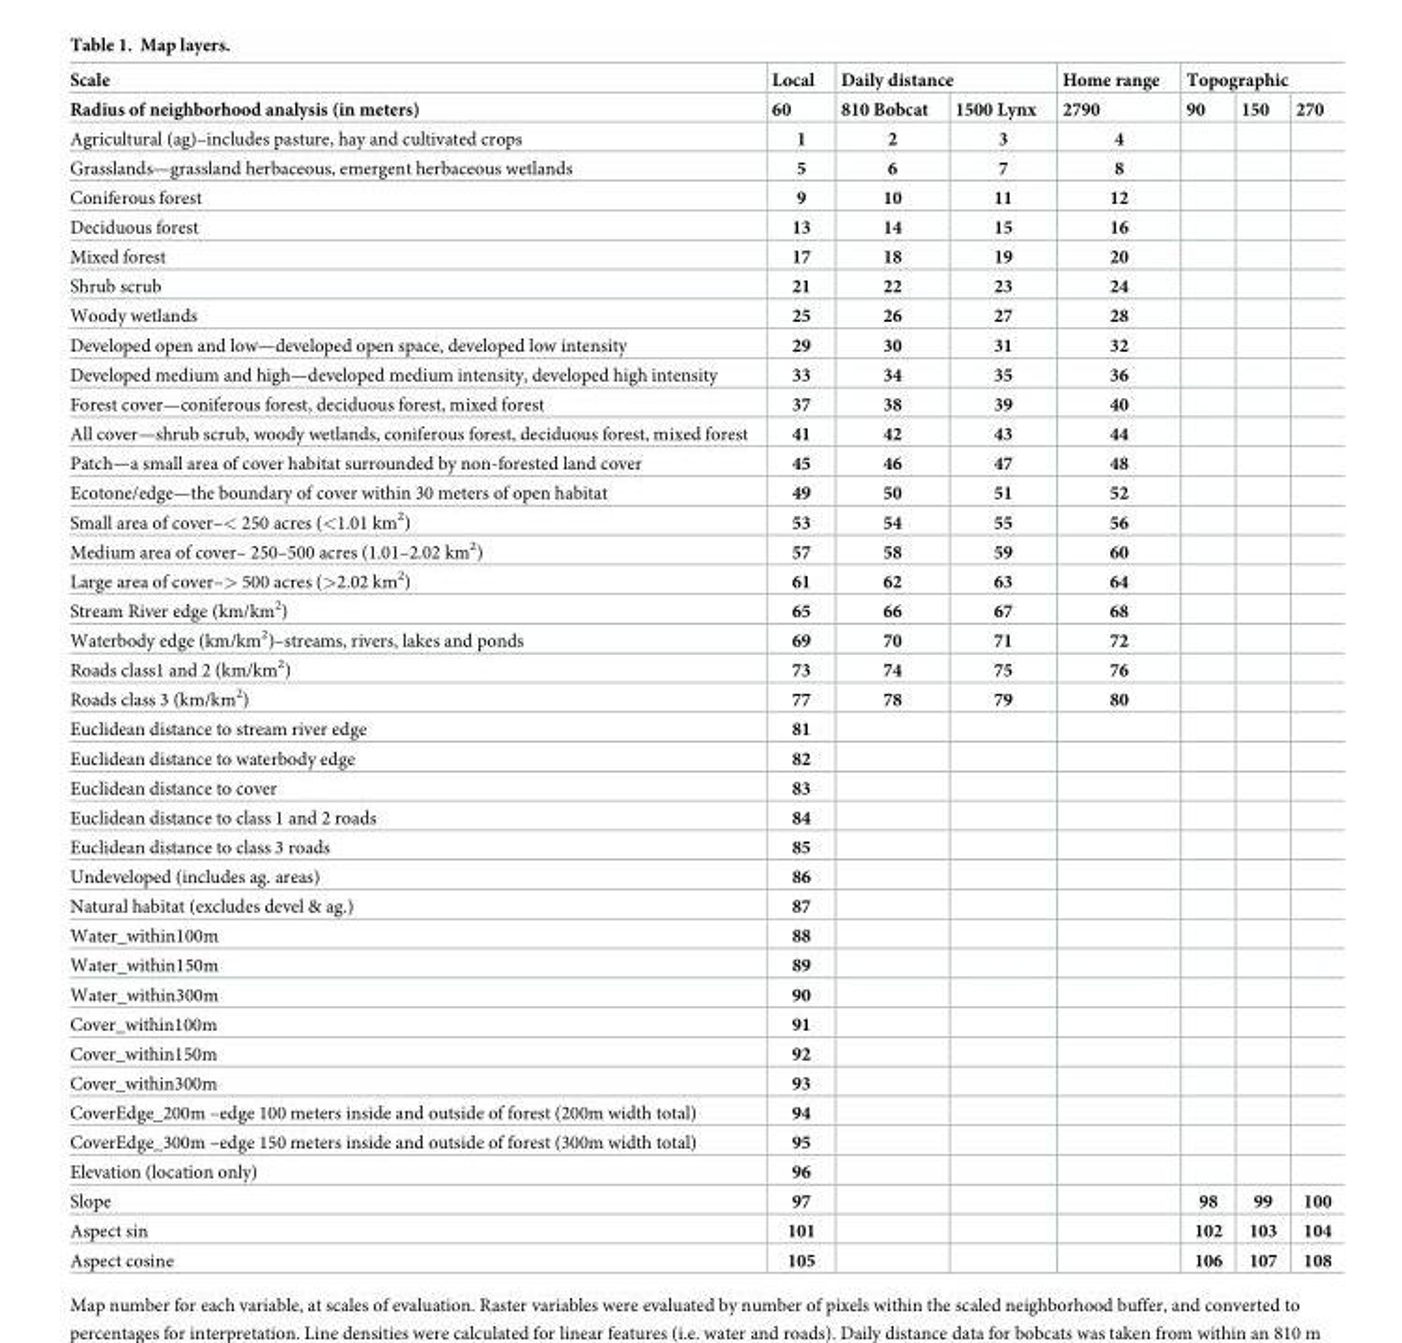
<table><thead><tr><td rowspan="2">Scale Radius of neighborhood analysis (in meters)</td><td rowspan="2">Local 60</td><td colspan="2">Daily distance</td><td rowspan="2">Home range 2790</td><td colspan="3">Topographic</td></tr><tr><td>810 Bobcat</td><td>1500 Lynx</td><td>90</td><td>150</td><td>270</td></tr></thead><tbody><tr><td>Agricultural (ag)–includes pasture, hay and cultivated crops</td><td>1</td><td>2</td><td>3</td><td>4</td><td></td><td></td><td></td></tr><tr><td>Grasslands—grassland herbaceous, emergent herbaceous wetlands</td><td>5</td><td>6</td><td>7</td><td>8</td><td></td><td></td><td></td></tr><tr><td>Coniferous forest</td><td>9</td><td>10</td><td>11</td><td>12</td><td></td><td></td><td></td></tr><tr><td>Deciduous forest</td><td>13</td><td>14</td><td>15</td><td>16</td><td></td><td></td><td></td></tr><tr><td>Mixed forest</td><td>17</td><td>18</td><td>19</td><td>20</td><td></td><td></td><td></td></tr><tr><td>Shrub scrub</td><td>21</td><td>22</td><td>23</td><td>24</td><td></td><td></td><td></td></tr><tr><td>Woody wetlands</td><td>25</td><td>26</td><td>27</td><td>28</td><td></td><td></td><td></td></tr><tr><td>Developed open and low—developed open space, developed low intensity</td><td>29</td><td>30</td><td>31</td><td>32</td><td></td><td></td><td></td></tr><tr><td>Developed medium and high—developed medium intensity, developed high intensity</td><td>33</td><td>34</td><td>35</td><td>36</td><td></td><td></td><td></td></tr><tr><td>Forest cover—coniferous forest, deciduous forest, mixed forest</td><td>37</td><td>38</td><td>39</td><td>40</td><td></td><td></td><td></td></tr><tr><td>All cover—shrub scrub, woody wetlands, coniferous forest, deciduous forest, mixed forest</td><td>41</td><td>42</td><td>43</td><td>44</td><td></td><td></td><td></td></tr><tr><td>Patch—a small area of cover habitat surrounded by non-forested land cover</td><td>45</td><td>46</td><td>47</td><td>48</td><td></td><td></td><td></td></tr><tr><td>Ecotone/edge—the boundary of cover within 30 meters of open habitat</td><td>49</td><td>50</td><td>51</td><td>52</td><td></td><td></td><td></td></tr><tr><td>Small area of cover–&lt; 250 acres (&lt;1.01 km<sup>2</sup>)</td><td>53</td><td>54</td><td>55</td><td>56</td><td></td><td></td><td></td></tr><tr><td>Medium area of cover– 250–500 acres (1.01–2.02 km<sup>2</sup>)</td><td>57</td><td>58</td><td>59</td><td>60</td><td></td><td></td><td></td></tr><tr><td>Large area of cover–&gt; 500 acres (&gt;2.02 km<sup>2</sup>)</td><td>61</td><td>62</td><td>63</td><td>64</td><td></td><td></td><td></td></tr><tr><td>Stream River edge (km/km<sup>2</sup>)</td><td>65</td><td>66</td><td>67</td><td>68</td><td></td><td></td><td></td></tr><tr><td>Waterbody edge (km/km<sup>2</sup>)–streams, rivers, lakes and ponds</td><td>69</td><td>70</td><td>71</td><td>72</td><td></td><td></td><td></td></tr><tr><td>Roads class1 and 2 (km/km<sup>2</sup>)</td><td>73</td><td>74</td><td>75</td><td>76</td><td></td><td></td><td></td></tr><tr><td>Roads class 3 (km/km<sup>2</sup>)</td><td>77</td><td>78</td><td>79</td><td>80</td><td></td><td></td><td></td></tr><tr><td>Euclidean distance to stream river edge</td><td>81</td><td></td><td></td><td></td><td></td><td></td><td></td></tr><tr><td>Euclidean distance to waterbody edge</td><td>82</td><td></td><td></td><td></td><td></td><td></td><td></td></tr><tr><td>Euclidean distance to cover</td><td>83</td><td></td><td></td><td></td><td></td><td></td><td></td></tr><tr><td>Euclidean distance to class 1 and 2 roads</td><td>84</td><td></td><td></td><td></td><td></td><td></td><td></td></tr><tr><td>Euclidean distance to class 3 roads</td><td>85</td><td></td><td></td><td></td><td></td><td></td><td></td></tr><tr><td>Undeveloped (includes ag. areas)</td><td>86</td><td></td><td></td><td></td><td></td><td></td><td></td></tr><tr><td>Natural habitat (excludes devel &amp; ag.)</td><td>87</td><td></td><td></td><td></td><td></td><td></td><td></td></tr><tr><td>Water_within100m</td><td>88</td><td></td><td></td><td></td><td></td><td></td><td></td></tr><tr><td>Water_within150m</td><td>89</td><td></td><td></td><td></td><td></td><td></td><td></td></tr><tr><td>Water_within300m</td><td>90</td><td></td><td></td><td></td><td></td><td></td><td></td></tr><tr><td>Cover_within100m</td><td>91</td><td></td><td></td><td></td><td></td><td></td><td></td></tr><tr><td>Cover_within150m</td><td>92</td><td></td><td></td><td></td><td></td><td></td><td></td></tr><tr><td>Cover_within300m</td><td>93</td><td></td><td></td><td></td><td></td><td></td><td></td></tr><tr><td>CoverEdge_200m –edge 100 meters inside and outside of forest (200m width total)</td><td>94</td><td></td><td></td><td></td><td></td><td></td><td></td></tr><tr><td>CoverEdge_300m –edge 150 meters inside and outside of forest (300m width total)</td><td>95</td><td></td><td></td><td></td><td></td><td></td><td></td></tr><tr><td>Elevation (location only)</td><td>96</td><td></td><td></td><td></td><td></td><td></td><td></td></tr><tr><td>Slope</td><td>97</td><td></td><td></td><td></td><td>98</td><td>99</td><td>100</td></tr><tr><td>Aspect sin</td><td>101</td><td></td><td></td><td></td><td>102</td><td>103</td><td>104</td></tr><tr><td>Aspect cosine</td><td>105</td><td></td><td></td><td></td><td>106</td><td>107</td><td>108</td></tr></tbody></table>